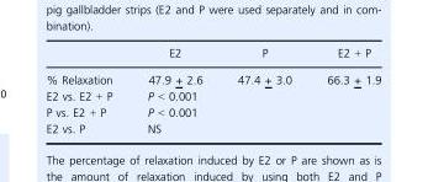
<table><thead><tr><td></td><td>E2</td><td>P</td><td>E2 + P</td></tr></thead><tbody><tr><td>% Relaxation</td><td>47.9 + 2.6</td><td>47.4 + 3.0</td><td>66.3 + 1.9</td></tr><tr><td>E2 vs. E2 + P</td><td>P &lt; 0.001</td><td></td><td></td></tr><tr><td>P vs. E2 + P</td><td>P &lt; 0.001</td><td></td><td></td></tr><tr><td>E2 vs. P</td><td>NS</td><td></td><td></td></tr></tbody></table>